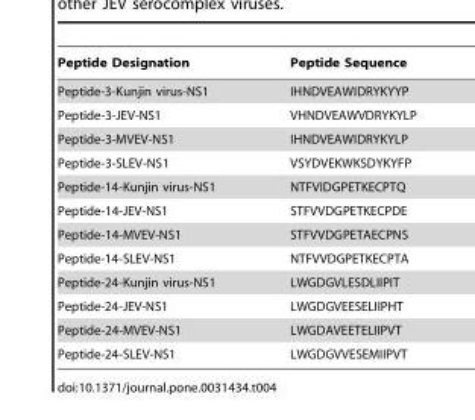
<table><thead><tr><td>Peptide Designation</td><td>Peptide Sequence</td></tr></thead><tbody><tr><td>Peptide-3-Kunjin virus-NS1</td><td>IHNDVEAWIDRYKYYP</td></tr><tr><td>Peptide-3-JEV-NS1</td><td>VHNDVEAWVDRYKYLP</td></tr><tr><td>Peptide-3-MVEV-NS1</td><td>IHNDVEAWIDRYKYLP</td></tr><tr><td>Peptide-3-SLEV-NS1</td><td>VSYDVEKWKSDYKYFP</td></tr><tr><td>Peptide-14-Kunjin virus-NS1</td><td>NTFVIDGPETKECPTQ</td></tr><tr><td>Peptide-14-JEV-NS1</td><td>STFVVDGPETKECPDE</td></tr><tr><td>Peptide-14-MVEV-NS1</td><td>STFVVDGPETAECPNS</td></tr><tr><td>Peptide-14-SLEV-NS1</td><td>NTFVVDGPETKECPTA</td></tr><tr><td>Peptide-24-Kunjin virus-NS1</td><td>LWGDGVLESDLIIPIT</td></tr><tr><td>Peptide-24-JEV-NS1</td><td>LWGDGVEESELIIPHT</td></tr><tr><td>Peptide-24-MVEV-NS1</td><td>LWGDAVEETELIIPVT</td></tr><tr><td>Peptide-24-SLEV-NS1</td><td>LWGDGVVESEMIIPVT</td></tr></tbody></table>